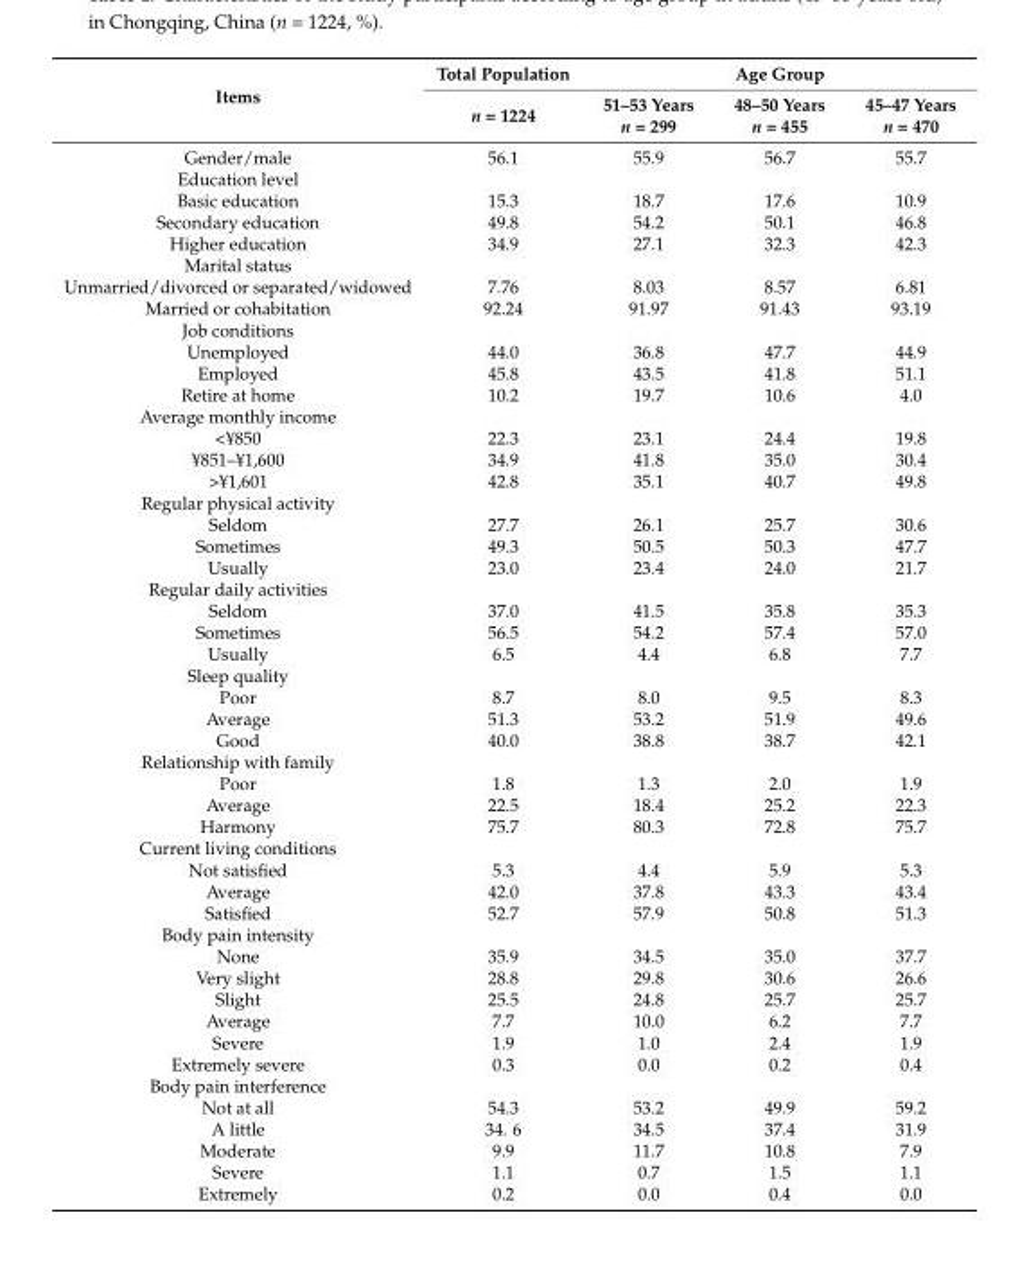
<table><thead><tr><td rowspan="2">Items</td><td rowspan="2">Total Population n = 1224</td><td colspan="3">Age Group</td></tr><tr><td>51–53 Years n = 299</td><td>48–50 Years n = 455</td><td>45–47 Years n = 470</td></tr></thead><tbody><tr><td>Gender/male</td><td>56.1</td><td>55.9</td><td>56.7</td><td>55.7</td></tr><tr><td colspan="5">Education level</td></tr><tr><td>Basic education</td><td>15.3</td><td>18.7</td><td>17.6</td><td>10.9</td></tr><tr><td>Secondary education</td><td>49.8</td><td>54.2</td><td>50.1</td><td>46.8</td></tr><tr><td>Higher education</td><td>34.9</td><td>27.1</td><td>32.3</td><td>42.3</td></tr><tr><td colspan="5">Marital status</td></tr><tr><td>Unmarried/divorced or separated/widowed</td><td>7.76</td><td>8.03</td><td>8.57</td><td>6.81</td></tr><tr><td>Married or cohabitation</td><td>92.24</td><td>91.97</td><td>91.43</td><td>93.19</td></tr><tr><td colspan="5">Job conditions</td></tr><tr><td>Unemployed</td><td>44.0</td><td>36.8</td><td>47.7</td><td>44.9</td></tr><tr><td>Employed</td><td>45.8</td><td>43.5</td><td>41.8</td><td>51.1</td></tr><tr><td>Retire at home</td><td>10.2</td><td>19.7</td><td>10.6</td><td>4.0</td></tr><tr><td colspan="5">Average monthly income</td></tr><tr><td>&lt;¥850</td><td>22.3</td><td>23.1</td><td>24.4</td><td>19.8</td></tr><tr><td>¥851–¥1,600</td><td>34.9</td><td>41.8</td><td>35.0</td><td>30.4</td></tr><tr><td>&gt;¥1,601</td><td>42.8</td><td>35.1</td><td>40.7</td><td>49.8</td></tr><tr><td colspan="5">Regular physical activity</td></tr><tr><td>Seldom</td><td>27.7</td><td>26.1</td><td>25.7</td><td>30.6</td></tr><tr><td>Sometimes</td><td>49.3</td><td>50.5</td><td>50.3</td><td>47.7</td></tr><tr><td>Usually</td><td>23.0</td><td>23.4</td><td>24.0</td><td>21.7</td></tr><tr><td colspan="5">Regular daily activities</td></tr><tr><td>Seldom</td><td>37.0</td><td>41.5</td><td>35.8</td><td>35.3</td></tr><tr><td>Sometimes</td><td>56.5</td><td>54.2</td><td>57.4</td><td>57.0</td></tr><tr><td>Usually</td><td>6.5</td><td>4.4</td><td>6.8</td><td>7.7</td></tr><tr><td colspan="5">Sleep quality</td></tr><tr><td>Poor</td><td>8.7</td><td>8.0</td><td>9.5</td><td>8.3</td></tr><tr><td>Average</td><td>51.3</td><td>53.2</td><td>51.9</td><td>49.6</td></tr><tr><td>Good</td><td>40.0</td><td>38.8</td><td>38.7</td><td>42.1</td></tr><tr><td colspan="5">Relationship with family</td></tr><tr><td>Poor</td><td>1.8</td><td>1.3</td><td>2.0</td><td>1.9</td></tr><tr><td>Average</td><td>22.5</td><td>18.4</td><td>25.2</td><td>22.3</td></tr><tr><td>Harmony</td><td>75.7</td><td>80.3</td><td>72.8</td><td>75.7</td></tr><tr><td colspan="5">Current living conditions</td></tr><tr><td>Not satisfied</td><td>5.3</td><td>4.4</td><td>5.9</td><td>5.3</td></tr><tr><td>Average</td><td>42.0</td><td>37.8</td><td>43.3</td><td>43.4</td></tr><tr><td>Satisfied</td><td>52.7</td><td>57.9</td><td>50.8</td><td>51.3</td></tr><tr><td colspan="5">Body pain intensity</td></tr><tr><td>None</td><td>35.9</td><td>34.5</td><td>35.0</td><td>37.7</td></tr><tr><td>Very slight</td><td>28.8</td><td>29.8</td><td>30.6</td><td>26.6</td></tr><tr><td>Slight</td><td>25.5</td><td>24.8</td><td>25.7</td><td>25.7</td></tr><tr><td>Average</td><td>7.7</td><td>10.0</td><td>6.2</td><td>7.7</td></tr><tr><td>Severe</td><td>1.9</td><td>1.0</td><td>2.4</td><td>1.9</td></tr><tr><td>Extremely severe</td><td>0.3</td><td>0.0</td><td>0.2</td><td>0.4</td></tr><tr><td colspan="5">Body pain interference</td></tr><tr><td>Not at all</td><td>54.3</td><td>53.2</td><td>49.9</td><td>59.2</td></tr><tr><td>A little</td><td>34. 6</td><td>34.5</td><td>37.4</td><td>31.9</td></tr><tr><td>Moderate</td><td>9.9</td><td>11.7</td><td>10.8</td><td>7.9</td></tr><tr><td>Severe</td><td>1.1</td><td>0.7</td><td>1.5</td><td>1.1</td></tr><tr><td>Extremely</td><td>0.2</td><td>0.0</td><td>0.4</td><td>0.0</td></tr></tbody></table>